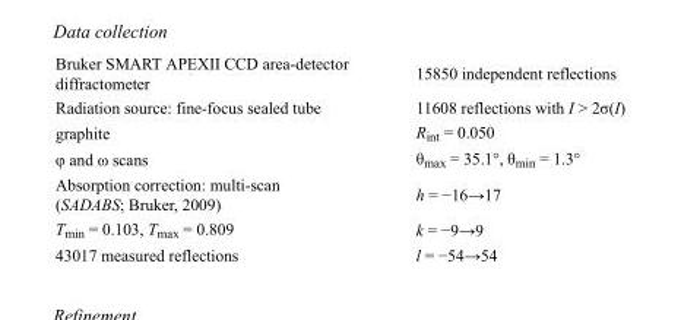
<table><tbody><tr><td>Bruker SMART APEXII CCD area-detector diffractometer</td><td>15850 independent reflections</td></tr><tr><td>Radiation source: fine-focus sealed tube</td><td>11608 reflections with I &gt; 2σ(I)</td></tr><tr><td>graphite</td><td>R<sub>int</sub> = 0.050</td></tr><tr><td>φ and ω scans</td><td>θ<sub>max</sub> = 35.1°, θ<sub>min</sub> = 1.3°</td></tr><tr><td>Absorption correction: multi-scan (SADABS; Bruker, 2009)</td><td>h = −16→17</td></tr><tr><td>T<sub>min</sub> = 0.103, T<sub>max</sub> = 0.809</td><td>k = −9→9</td></tr><tr><td>43017 measured reflections</td><td>l = −54→54</td></tr></tbody></table>